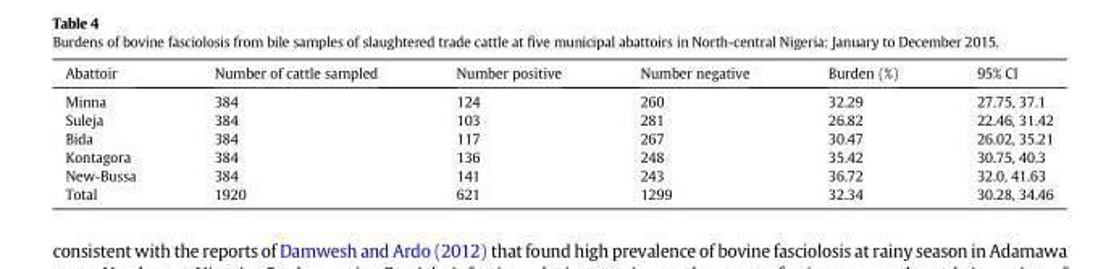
<table><thead><tr><td>Abattoir</td><td>Number of cattle sampled</td><td>Number positive</td><td>Number negative</td><td>Burden (%)</td><td>95% CI</td></tr></thead><tbody><tr><td>Minna</td><td>384</td><td>124</td><td>260</td><td>32.29</td><td>27.75, 37.1</td></tr><tr><td>Suleja</td><td>384</td><td>103</td><td>281</td><td>26.82</td><td>22.46, 31.42</td></tr><tr><td>Bida</td><td>384</td><td>117</td><td>267</td><td>30.47</td><td>26.02, 35.21</td></tr><tr><td>Kontagora</td><td>384</td><td>136</td><td>248</td><td>35.42</td><td>30.75, 40.3</td></tr><tr><td>New-Bussa</td><td>384</td><td>141</td><td>243</td><td>36.72</td><td>32.0, 41.63</td></tr><tr><td>Total</td><td>1920</td><td>621</td><td>1299</td><td>32.34</td><td>30.28, 34.46</td></tr></tbody></table>